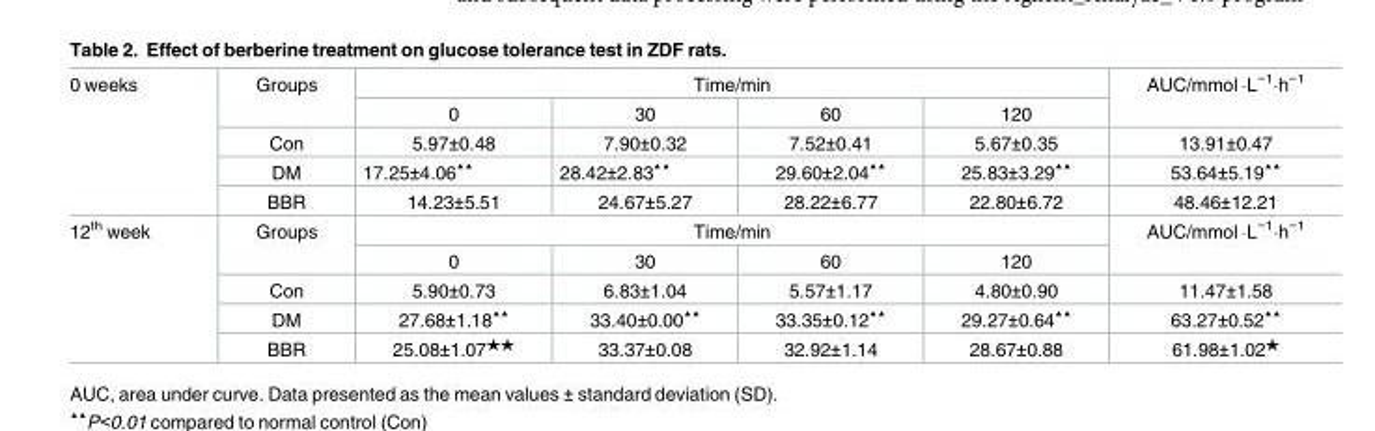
<table><tbody><tr><td rowspan="5">0 weeks</td><td rowspan="2">Groups</td><td colspan="4">Time/min</td><td rowspan="2">AUC/mmol ⋅L<sup>−1</sup>⋅h<sup>−1</sup></td></tr><tr><td>0</td><td>30</td><td>60</td><td>120</td></tr><tr><td>Con</td><td>5.97±0.48</td><td>7.90±0.32</td><td>7.52±0.41</td><td>5.67±0.35</td><td>13.91±0.47</td></tr><tr><td>DM</td><td>17.25±4.06<sup>▲▲</sup></td><td>28.42±2.83<sup>▲▲</sup></td><td>29.60±2.04<sup>▲▲</sup></td><td>25.83±3.29<sup>▲▲</sup></td><td>53.64±5.19<sup>▲▲</sup></td></tr><tr><td>BBR</td><td>14.23±5.51</td><td>24.67±5.27</td><td>28.22±6.77</td><td>22.80±6.72</td><td>48.46±12.21</td></tr><tr><td rowspan="5">12<sup>th</sup> week</td><td rowspan="2">Groups</td><td colspan="4">Time/min</td><td rowspan="2">AUC/mmol ⋅L<sup>−1</sup>⋅h<sup>−1</sup></td></tr><tr><td>0</td><td>30</td><td>60</td><td>120</td></tr><tr><td>Con</td><td>5.90±0.73</td><td>6.83±1.04</td><td>5.57±1.17</td><td>4.80±0.90</td><td>11.47±1.58</td></tr><tr><td>DM</td><td>27.68±1.18<sup>▲▲</sup></td><td>33.40±0.00<sup>▲▲</sup></td><td>33.35±0.12<sup>▲▲</sup></td><td>29.27±0.64<sup>▲▲</sup></td><td>63.27±0.52<sup>▲▲</sup></td></tr><tr><td>BBR</td><td>25.08±1.07<sup>★★</sup></td><td>33.37±0.08</td><td>32.92±1.14</td><td>28.67±0.88</td><td>61.98±1.02<sup>★</sup></td></tr></tbody></table>